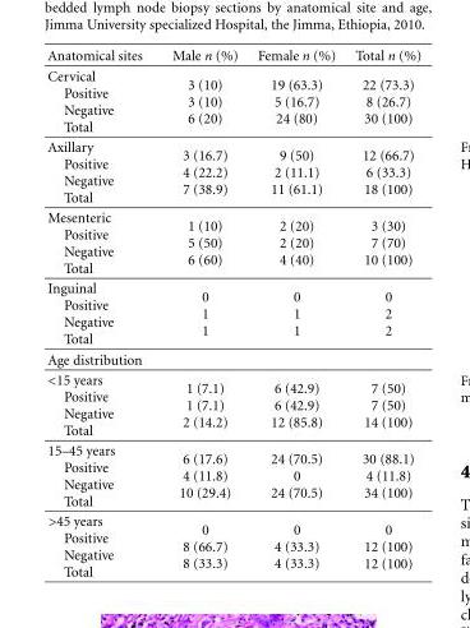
<table><thead><tr><td>Anatomical sites</td><td>Male n (%)</td><td>Female n (%)</td><td>Total n (%)</td></tr></thead><tbody><tr><td>Cervical Positive Negative Total</td><td>3 (10) 3 (10) 6 (20)</td><td>19 (63.3) 5 (16.7) 24 (80)</td><td>22 (73.3) 8 (26.7) 30 (100)</td></tr><tr><td>Axillary Positive Negative Total</td><td>3 (16.7) 4 (22.2) 7 (38.9)</td><td>9 (50) 2 (11.1) 11 (61.1)</td><td>12 (66.7) 6 (33.3) 18 (100)</td></tr><tr><td>Mesenteric Positive Negative Total</td><td>1 (10) 5 (50) 6 (60)</td><td>2 (20) 2 (20) 4 (40)</td><td>3 (30) 7 (70) 10 (100)</td></tr><tr><td>Inguinal Positive Negative Total</td><td>0 1 1</td><td>0 1 1</td><td>0 2 2</td></tr><tr><td colspan="4">Age distribution</td></tr><tr><td>&lt;15 years Positive Negative Total</td><td>1 (7.1) 1 (7.1) 2 (14.2)</td><td>6 (42.9) 6 (42.9) 12 (85.8)</td><td>7 (50) 7 (50) 14 (100)</td></tr><tr><td>15–45 years Positive Negative Total</td><td>6 (17.6) 4 (11.8) 10 (29.4)</td><td>24 (70.5) 0 24 (70.5)</td><td>30 (88.1) 4 (11.8) 34 (100)</td></tr><tr><td>&gt;45 years Positive Negative Total</td><td>0 8 (66.7) 8 (33.3)</td><td>0 4 (33.3) 4 (33.3)</td><td>0 12 (100) 12 (100)</td></tr></tbody></table>